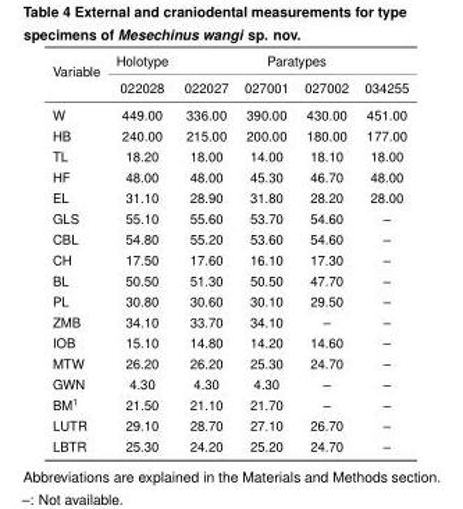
<table><thead><tr><td rowspan="2">Variable</td><td rowspan="2">Holotype 022028</td><td colspan="4">Paratypes</td></tr><tr><td>022027</td><td>027001</td><td>027002</td><td>034255</td></tr></thead><tbody><tr><td>W</td><td>449.00</td><td>336.00</td><td>390.00</td><td>430.00</td><td>451.00</td></tr><tr><td>HB</td><td>240.00</td><td>215.00</td><td>200.00</td><td>180.00</td><td>177.00</td></tr><tr><td>TL</td><td>18.20</td><td>18.00</td><td>14.00</td><td>18.10</td><td>18.00</td></tr><tr><td>HF</td><td>48.00</td><td>48.00</td><td>45.30</td><td>46.70</td><td>48.00</td></tr><tr><td>EL</td><td>31.10</td><td>28.90</td><td>31.80</td><td>28.20</td><td>28.00</td></tr><tr><td>GLS</td><td>55.10</td><td>55.60</td><td>53.70</td><td>54.60</td><td>–</td></tr><tr><td>CBL</td><td>54.80</td><td>55.20</td><td>53.60</td><td>54.60</td><td>–</td></tr><tr><td>CH</td><td>17.50</td><td>17.60</td><td>16.10</td><td>17.30</td><td>–</td></tr><tr><td>BL</td><td>50.50</td><td>51.30</td><td>50.50</td><td>47.70</td><td>–</td></tr><tr><td>PL</td><td>30.80</td><td>30.60</td><td>30.10</td><td>29.50</td><td>–</td></tr><tr><td>ZMB</td><td>34.10</td><td>33.70</td><td>34.10</td><td>–</td><td>–</td></tr><tr><td>IOB</td><td>15.10</td><td>14.80</td><td>14.20</td><td>14.60</td><td>–</td></tr><tr><td>MTW</td><td>26.20</td><td>26.20</td><td>25.30</td><td>24.70</td><td>–</td></tr><tr><td>GWN</td><td>4.30</td><td>4.30</td><td>4.30</td><td>–</td><td>–</td></tr><tr><td>BM<sup>1</sup></td><td>21.50</td><td>21.10</td><td>21.70</td><td>–</td><td>–</td></tr><tr><td>LUTR</td><td>29.10</td><td>28.70</td><td>27.10</td><td>26.70</td><td>–</td></tr><tr><td>LBTR</td><td>25.30</td><td>24.20</td><td>25.20</td><td>24.70</td><td>–</td></tr></tbody></table>